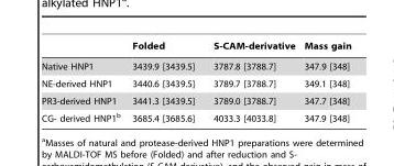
<table><thead><tr><td></td><td>Folded</td><td>S-CAM-derivative</td><td>Mass gain</td></tr></thead><tbody><tr><td>Native HNP1</td><td>3439.9 [3439.5]</td><td>3787.8 [3788.7]</td><td>347.9 [348]</td></tr><tr><td>NE-derived HNP1</td><td>3440.6 [3439.5]</td><td>3789.7 [3788.7]</td><td>349.1 [348]</td></tr><tr><td>PR3-derived HNP1</td><td>3441.3 [3439.5]</td><td>3789.0 [3788.7]</td><td>347.7 [348]</td></tr><tr><td>CG- derived HNP1<sup>b</sup></td><td>3685.4 [3685.6]</td><td>4033.3 [4033.8]</td><td>347.9 [348]</td></tr></tbody></table>